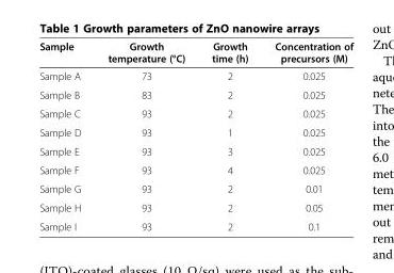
<table><thead><tr><td>Sample</td><td>Growth temperature (°C)</td><td>Growth time (h)</td><td>Concentration of precursors (M)</td></tr></thead><tbody><tr><td>Sample A</td><td>73</td><td>2</td><td>0.025</td></tr><tr><td>Sample B</td><td>83</td><td>2</td><td>0.025</td></tr><tr><td>Sample C</td><td>93</td><td>2</td><td>0.025</td></tr><tr><td>Sample D</td><td>93</td><td>1</td><td>0.025</td></tr><tr><td>Sample E</td><td>93</td><td>3</td><td>0.025</td></tr><tr><td>Sample F</td><td>93</td><td>4</td><td>0.025</td></tr><tr><td>Sample G</td><td>93</td><td>2</td><td>0.01</td></tr><tr><td>Sample H</td><td>93</td><td>2</td><td>0.05</td></tr><tr><td>Sample I</td><td>93</td><td>2</td><td>0.1</td></tr></tbody></table>